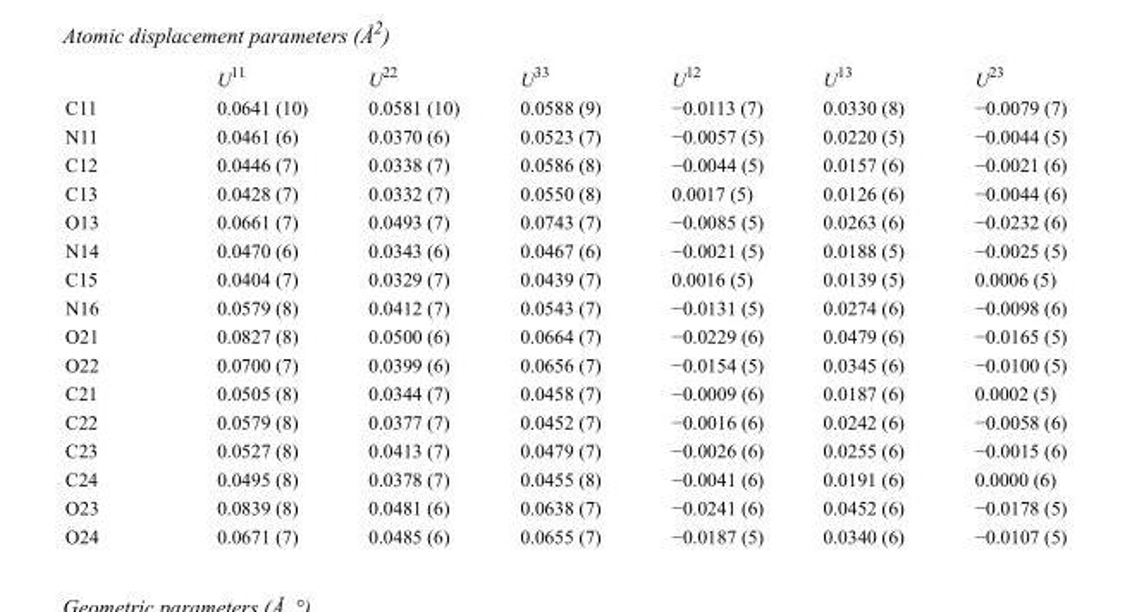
<table><thead><tr><td></td><td>U<sup>11</sup></td><td>U<sup>22</sup></td><td>U<sup>33</sup></td><td>U<sup>12</sup></td><td>U<sup>13</sup></td><td>U<sup>23</sup></td></tr></thead><tbody><tr><td>C11</td><td>0.0641 (10)</td><td>0.0581 (10)</td><td>0.0588 (9)</td><td>−0.0113 (7)</td><td>0.0330 (8)</td><td>−0.0079 (7)</td></tr><tr><td>N11</td><td>0.0461 (6)</td><td>0.0370 (6)</td><td>0.0523 (7)</td><td>−0.0057 (5)</td><td>0.0220 (5)</td><td>−0.0044 (5)</td></tr><tr><td>C12</td><td>0.0446 (7)</td><td>0.0338 (7)</td><td>0.0586 (8)</td><td>−0.0044 (5)</td><td>0.0157 (6)</td><td>−0.0021 (6)</td></tr><tr><td>C13</td><td>0.0428 (7)</td><td>0.0332 (7)</td><td>0.0550 (8)</td><td>0.0017 (5)</td><td>0.0126 (6)</td><td>−0.0044 (6)</td></tr><tr><td>O13</td><td>0.0661 (7)</td><td>0.0493 (7)</td><td>0.0743 (7)</td><td>−0.0085 (5)</td><td>0.0263 (6)</td><td>−0.0232 (6)</td></tr><tr><td>N14</td><td>0.0470 (6)</td><td>0.0343 (6)</td><td>0.0467 (6)</td><td>−0.0021 (5)</td><td>0.0188 (5)</td><td>−0.0025 (5)</td></tr><tr><td>C15</td><td>0.0404 (7)</td><td>0.0329 (7)</td><td>0.0439 (7)</td><td>0.0016 (5)</td><td>0.0139 (5)</td><td>0.0006 (5)</td></tr><tr><td>N16</td><td>0.0579 (8)</td><td>0.0412 (7)</td><td>0.0543 (7)</td><td>−0.0131 (5)</td><td>0.0274 (6)</td><td>−0.0098 (6)</td></tr><tr><td>O21</td><td>0.0827 (8)</td><td>0.0500 (6)</td><td>0.0664 (7)</td><td>−0.0229 (6)</td><td>0.0479 (6)</td><td>−0.0165 (5)</td></tr><tr><td>O22</td><td>0.0700 (7)</td><td>0.0399 (6)</td><td>0.0656 (7)</td><td>−0.0154 (5)</td><td>0.0345 (6)</td><td>−0.0100 (5)</td></tr><tr><td>C21</td><td>0.0505 (8)</td><td>0.0344 (7)</td><td>0.0458 (7)</td><td>−0.0009 (6)</td><td>0.0187 (6)</td><td>0.0002 (5)</td></tr><tr><td>C22</td><td>0.0579 (8)</td><td>0.0377 (7)</td><td>0.0452 (7)</td><td>−0.0016 (6)</td><td>0.0242 (6)</td><td>−0.0058 (6)</td></tr><tr><td>C23</td><td>0.0527 (8)</td><td>0.0413 (7)</td><td>0.0479 (7)</td><td>−0.0026 (6)</td><td>0.0255 (6)</td><td>−0.0015 (6)</td></tr><tr><td>C24</td><td>0.0495 (8)</td><td>0.0378 (7)</td><td>0.0455 (8)</td><td>−0.0041 (6)</td><td>0.0191 (6)</td><td>0.0000 (6)</td></tr><tr><td>O23</td><td>0.0839 (8)</td><td>0.0481 (6)</td><td>0.0638 (7)</td><td>−0.0241 (6)</td><td>0.0452 (6)</td><td>−0.0178 (5)</td></tr><tr><td>O24</td><td>0.0671 (7)</td><td>0.0485 (6)</td><td>0.0655 (7)</td><td>−0.0187 (5)</td><td>0.0340 (6)</td><td>−0.0107 (5)</td></tr></tbody></table>